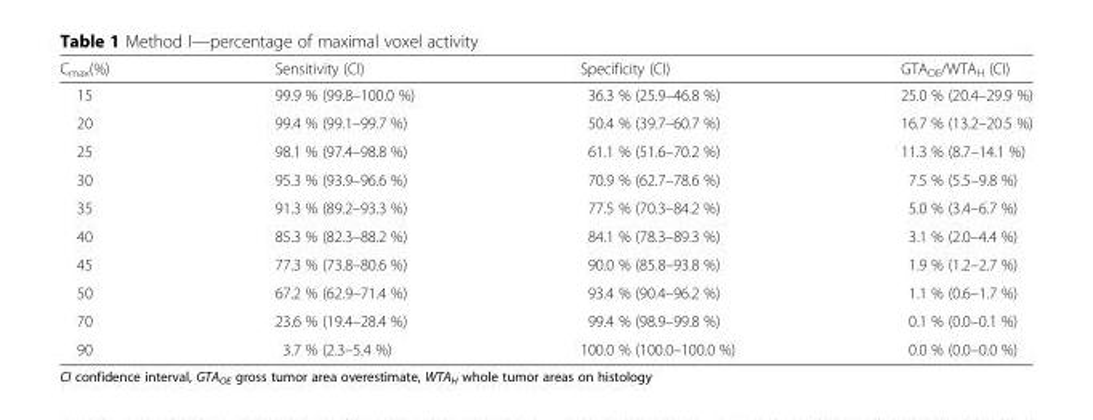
<table><thead><tr><td>C<sub>max</sub>(%)</td><td>Sensitivity (CI)</td><td>Specificity (CI)</td><td>GTA<sub>OE</sub>/WTA<sub>H</sub> (CI)</td></tr></thead><tbody><tr><td>15</td><td>99.9 % (99.8–100.0 %)</td><td>36.3 % (25.9–46.8 %)</td><td>25.0 % (20.4–29.9 %)</td></tr><tr><td>20</td><td>99.4 % (99.1–99.7 %)</td><td>50.4 % (39.7–60.7 %)</td><td>16.7 % (13.2–20.5 %)</td></tr><tr><td>25</td><td>98.1 % (97.4–98.8 %)</td><td>61.1 % (51.6–70.2 %)</td><td>11.3 % (8.7–14.1 %)</td></tr><tr><td>30</td><td>95.3 % (93.9–96.6 %)</td><td>70.9 % (62.7–78.6 %)</td><td>7.5 % (5.5–9.8 %)</td></tr><tr><td>35</td><td>91.3 % (89.2–93.3 %)</td><td>77.5 % (70.3–84.2 %)</td><td>5.0 % (3.4–6.7 %)</td></tr><tr><td>40</td><td>85.3 % (82.3–88.2 %)</td><td>84.1 % (78.3–89.3 %)</td><td>3.1 % (2.0–4.4 %)</td></tr><tr><td>45</td><td>77.3 % (73.8–80.6 %)</td><td>90.0 % (85.8–93.8 %)</td><td>1.9 % (1.2–2.7 %)</td></tr><tr><td>50</td><td>67.2 % (62.9–71.4 %)</td><td>93.4 % (90.4–96.2 %)</td><td>1.1 % (0.6–1.7 %)</td></tr><tr><td>70</td><td>23.6 % (19.4–28.4 %)</td><td>99.4 % (98.9–99.8 %)</td><td>0.1 % (0.0–0.1 %)</td></tr><tr><td>90</td><td>3.7 % (2.3–5.4 %)</td><td>100.0 % (100.0–100.0 %)</td><td>0.0 % (0.0–0.0 %)</td></tr></tbody></table>